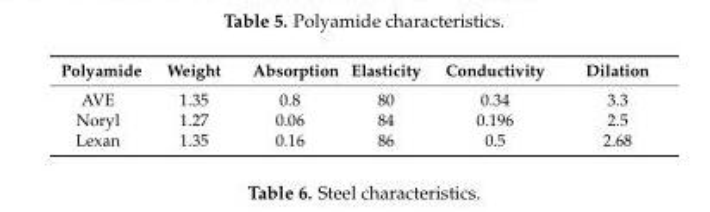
<table><thead><tr><td>Polyamide</td><td>Weight</td><td>Absorption</td><td>Elasticity</td><td>Conductivity</td><td>Dilation</td></tr></thead><tbody><tr><td>AVE</td><td>1.35</td><td>0.8</td><td>80</td><td>0.34</td><td>3.3</td></tr><tr><td>Noryl</td><td>1.27</td><td>0.06</td><td>84</td><td>0.196</td><td>2.5</td></tr><tr><td>Lexan</td><td>1.35</td><td>0.16</td><td>86</td><td>0.5</td><td>2.68</td></tr></tbody></table>